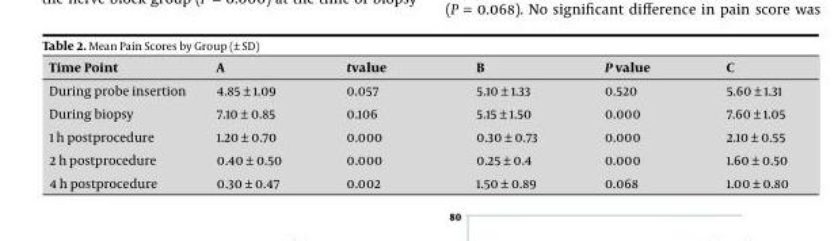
<table><thead><tr><td>Time Point</td><td>A</td><td>tvalue</td><td>B</td><td>P value</td><td>C</td></tr></thead><tbody><tr><td>During probe insertion</td><td>4.85 ± 1.09</td><td>0.057</td><td>5.10 ± 1.33</td><td>0.520</td><td>5.60 ± 1.31</td></tr><tr><td>During biopsy</td><td>7.10 ± 0.85</td><td>0.106</td><td>5.15 ± 1.50</td><td>0.000</td><td>7.60 ± 1.05</td></tr><tr><td>1 h postprocedure</td><td>1.20 ± 0.70</td><td>0.000</td><td>0.30 ± 0.73</td><td>0.000</td><td>2.10 ± 0.55</td></tr><tr><td>2 h postprocedure</td><td>0.40 ± 0.50</td><td>0.000</td><td>0.25 ± 0.4</td><td>0.000</td><td>1.60 ± 0.50</td></tr><tr><td>4 h postprocedure</td><td>0.30 ± 0.47</td><td>0.002</td><td>1.50 ± 0.89</td><td>0.068</td><td>1.00 ± 0.80</td></tr></tbody></table>